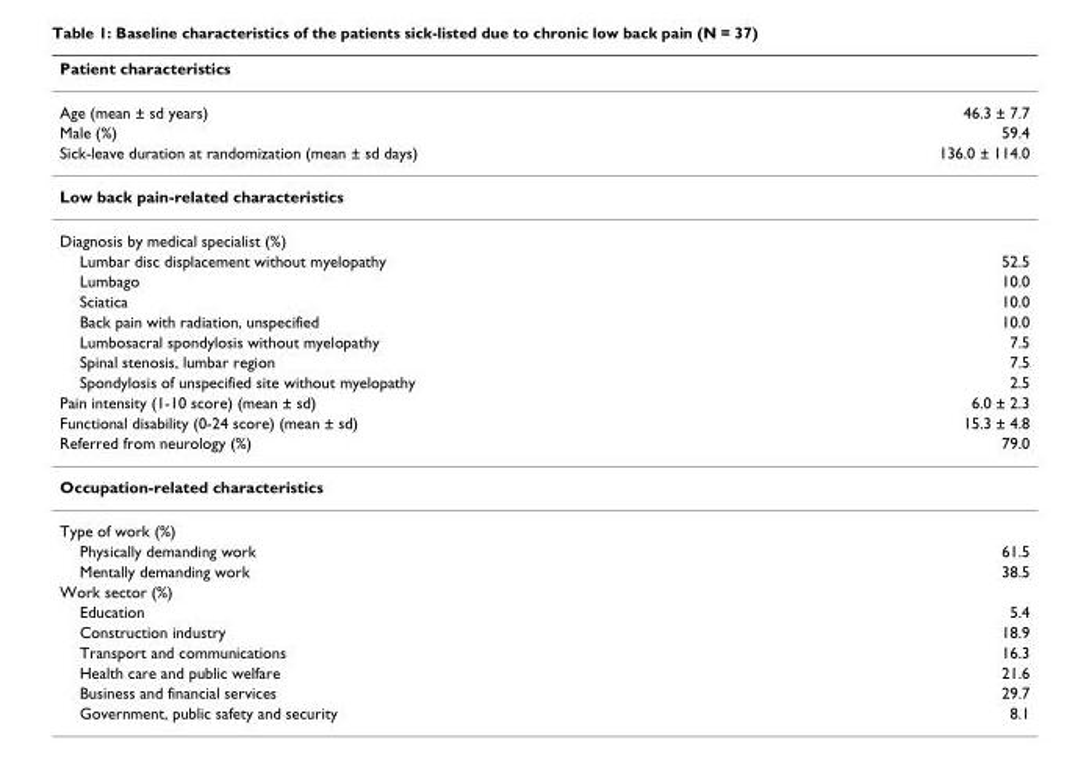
<table><thead><tr><td>Patient characteristics</td><td></td></tr></thead><tbody><tr><td>Age (mean ± sd years)</td><td>46.3 ± 7.7</td></tr><tr><td>Male (%)</td><td>59.4</td></tr><tr><td>Sick-leave duration at randomization (mean ± sd days)</td><td>136.0 ± 114.0</td></tr><tr><td colspan="2">Low back pain-related characteristics</td></tr><tr><td colspan="2">Diagnosis by medical specialist (%)</td></tr><tr><td>Lumbar disc displacement without myelopathy</td><td>52.5</td></tr><tr><td>Lumbago</td><td>10.0</td></tr><tr><td>Sciatica</td><td>10.0</td></tr><tr><td>Back pain with radiation, unspecified</td><td>10.0</td></tr><tr><td>Lumbosacral spondylosis without myelopathy</td><td>7.5</td></tr><tr><td>Spinal stenosis, lumbar region</td><td>7.5</td></tr><tr><td>Spondylosis of unspecified site without myelopathy</td><td>2.5</td></tr><tr><td>Pain intensity (1-10 score) (mean ± sd)</td><td>6.0 ± 2.3</td></tr><tr><td>Functional disability (0-24 score) (mean ± sd)</td><td>15.3 ± 4.8</td></tr><tr><td>Referred from neurology (%)</td><td>79.0</td></tr><tr><td colspan="2">Occupation-related characteristics</td></tr><tr><td colspan="2">Type of work (%)</td></tr><tr><td>Physically demanding work</td><td>61.5</td></tr><tr><td>Mentally demanding work</td><td>38.5</td></tr><tr><td colspan="2">Work sector (%)</td></tr><tr><td>Education</td><td>5.4</td></tr><tr><td>Construction industry</td><td>18.9</td></tr><tr><td>Transport and communications</td><td>16.3</td></tr><tr><td>Health care and public welfare</td><td>21.6</td></tr><tr><td>Business and financial services</td><td>29.7</td></tr><tr><td>Government, public safety and security</td><td>8.1</td></tr></tbody></table>